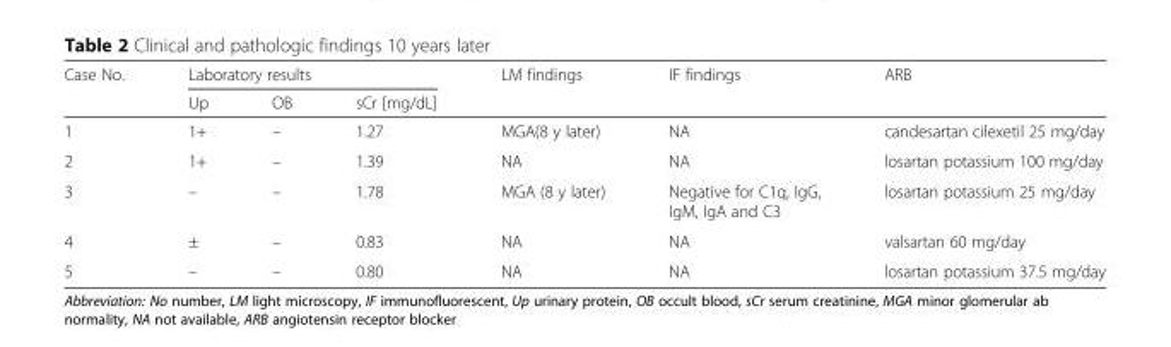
<table><thead><tr><td rowspan="2">Case No.</td><td colspan="3">Laboratory results</td><td rowspan="2">LM findings</td><td rowspan="2">IF findings</td><td rowspan="2">ARB</td></tr><tr><td>Up</td><td>OB</td><td>sCr [mg/dL]</td></tr></thead><tbody><tr><td>1</td><td>1+</td><td>–</td><td>1.27</td><td>MGA(8 y later)</td><td>NA</td><td>candesartan cilexetil 25 mg/day</td></tr><tr><td>2</td><td>1+</td><td>–</td><td>1.39</td><td>NA</td><td>NA</td><td>losartan potassium 100 mg/day</td></tr><tr><td>3</td><td>–</td><td>–</td><td>1.78</td><td>MGA (8 y later)</td><td>Negative for C1q, IgG, IgM, IgA and C3</td><td>losartan potassium 25 mg/day</td></tr><tr><td>4</td><td>±</td><td>–</td><td>0.83</td><td>NA</td><td>NA</td><td>valsartan 60 mg/day</td></tr><tr><td>5</td><td>–</td><td>–</td><td>0.80</td><td>NA</td><td>NA</td><td>losartan potassium 37.5 mg/day</td></tr></tbody></table>